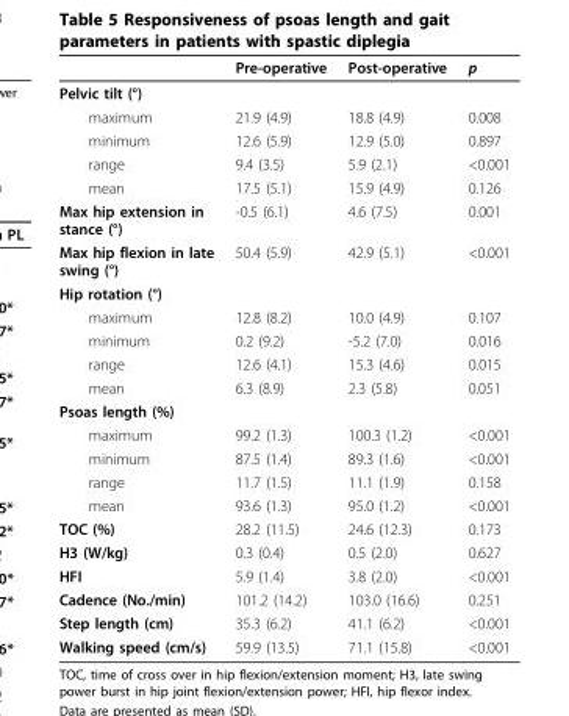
<table><thead><tr><td></td><td>Pre-operative</td><td>Post-operative</td><td>p</td></tr></thead><tbody><tr><td colspan="4">Pelvic tilt (°)</td></tr><tr><td>maximum</td><td>21.9 (4.9)</td><td>18.8 (4.9)</td><td>0.008</td></tr><tr><td>minimum</td><td>12.6 (5.9)</td><td>12.9 (5.0)</td><td>0.897</td></tr><tr><td>range</td><td>9.4 (3.5)</td><td>5.9 (2.1)</td><td>&lt;0.001</td></tr><tr><td>mean</td><td>17.5 (5.1)</td><td>15.9 (4.9)</td><td>0.126</td></tr><tr><td>Max hip extension in stance (°)</td><td>-0.5 (6.1)</td><td>4.6 (7.5)</td><td>0.001</td></tr><tr><td>Max hip flexion in late swing (°)</td><td>50.4 (5.9)</td><td>42.9 (5.1)</td><td>&lt;0.001</td></tr><tr><td colspan="4">Hip rotation (°)</td></tr><tr><td>maximum</td><td>12.8 (8.2)</td><td>10.0 (4.9)</td><td>0.107</td></tr><tr><td>minimum</td><td>0.2 (9.2)</td><td>-5.2 (7.0)</td><td>0.016</td></tr><tr><td>range</td><td>12.6 (4.1)</td><td>15.3 (4.6)</td><td>0.015</td></tr><tr><td>mean</td><td>6.3 (8.9)</td><td>2.3 (5.8)</td><td>0.051</td></tr><tr><td colspan="4">Psoas length (%)</td></tr><tr><td>maximum</td><td>99.2 (1.3)</td><td>100.3 (1.2)</td><td>&lt;0.001</td></tr><tr><td>minimum</td><td>87.5 (1.4)</td><td>89.3 (1.6)</td><td>&lt;0.001</td></tr><tr><td>range</td><td>11.7 (1.5)</td><td>11.1 (1.9)</td><td>0.158</td></tr><tr><td>mean</td><td>93.6 (1.3)</td><td>95.0 (1.2)</td><td>&lt;0.001</td></tr><tr><td>TOC (%)</td><td>28.2 (11.5)</td><td>24.6 (12.3)</td><td>0.173</td></tr><tr><td>H3 (W/kg)</td><td>0.3 (0.4)</td><td>0.5 (2.0)</td><td>0.627</td></tr><tr><td>HFI</td><td>5.9 (1.4)</td><td>3.8 (2.0)</td><td>&lt;0.001</td></tr><tr><td>Cadence (No./min)</td><td>101.2 (14.2)</td><td>103.0 (16.6)</td><td>0.251</td></tr><tr><td>Step length (cm)</td><td>35.3 (6.2)</td><td>41.1 (6.2)</td><td>&lt;0.001</td></tr><tr><td>Walking speed (cm/s)</td><td>59.9 (13.5)</td><td>71.1 (15.8)</td><td>&lt;0.001</td></tr></tbody></table>